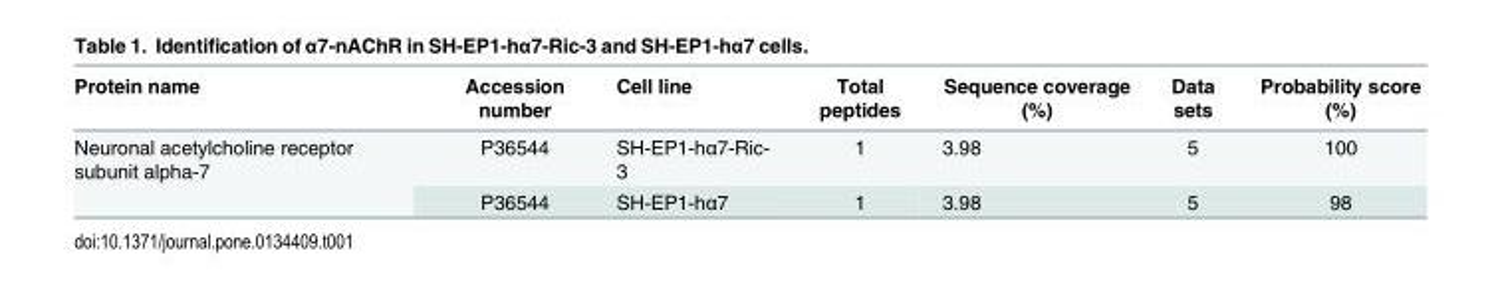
<table><thead><tr><td>Protein name</td><td>Accession number</td><td>Cell line</td><td>Total peptides</td><td>Sequence coverage (%)</td><td>Data sets</td><td>Probability score (%)</td></tr></thead><tbody><tr><td rowspan="2">Neuronal acetylcholine receptor subunit alpha-7</td><td>P36544</td><td>SH-EP1-hα7-Ric- 3</td><td>1</td><td>3.98</td><td>5</td><td>100</td></tr><tr><td>P36544</td><td>SH-EP1-hα7</td><td>1</td><td>3.98</td><td>5</td><td>98</td></tr></tbody></table>